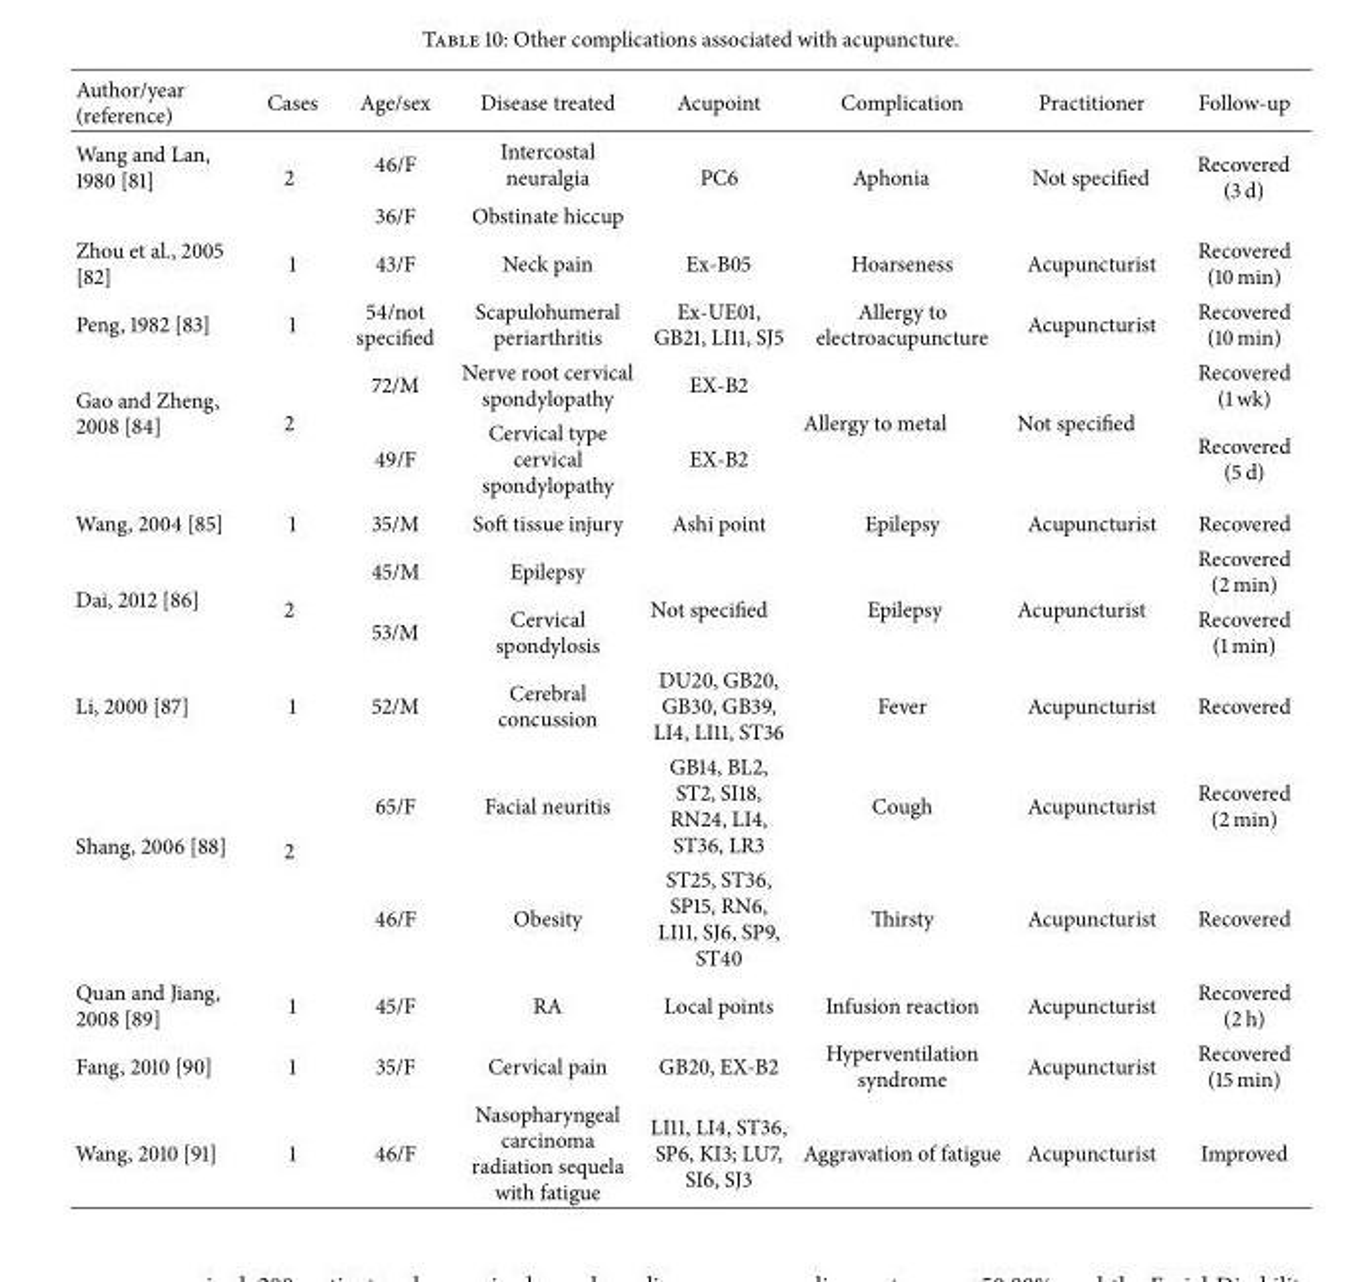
<table><thead><tr><td>Author/year (reference)</td><td>Cases</td><td>Age/sex</td><td>Disease treated</td><td>Acupoint</td><td>Complication</td><td>Practitioner</td><td>Follow-up</td></tr></thead><tbody><tr><td rowspan="2">Wang and Lan, 1980 [81]</td><td rowspan="2">2</td><td>46/F</td><td>Intercostal neuralgia</td><td rowspan="2">PC6</td><td rowspan="2">Aphonia</td><td rowspan="2">Not specified</td><td rowspan="2">Recovered (3 d)</td></tr><tr><td>36/F</td><td>Obstinate hiccup</td></tr><tr><td>Zhou et al., 2005 [82]</td><td>1</td><td>43/F</td><td>Neck pain</td><td>Ex-B05</td><td>Hoarseness</td><td>Acupuncturist</td><td>Recovered (10 min)</td></tr><tr><td>Peng, 1982 [83]</td><td>1</td><td>54/not specified</td><td>Scapulohumeral periarthritis</td><td>Ex-UE01, GB21, LI11, SJ5</td><td>Allergy to electroacupuncture</td><td>Acupuncturist</td><td>Recovered (10 min)</td></tr><tr><td rowspan="2">Gao and Zheng, 2008 [84]</td><td rowspan="2">2</td><td>72/M</td><td>Nerve root cervical spondylopathy</td><td>EX-B2</td><td rowspan="2">Allergy to metal</td><td rowspan="2">Not specified</td><td>Recovered (1 wk)</td></tr><tr><td>49/F</td><td>Cervical type cervical spondylopathy</td><td>EX-B2</td><td>Recovered (5 d)</td></tr><tr><td>Wang, 2004 [85]</td><td>1</td><td>35/M</td><td>Soft tissue injury</td><td>Ashi point</td><td>Epilepsy</td><td>Acupuncturist</td><td>Recovered</td></tr><tr><td rowspan="2">Dai, 2012 [86]</td><td rowspan="2">2</td><td>45/M</td><td>Epilepsy</td><td rowspan="2">Not specified</td><td rowspan="2">Epilepsy</td><td rowspan="2">Acupuncturist</td><td>Recovered (2 min)</td></tr><tr><td>53/M</td><td>Cervical spondylosis</td><td>Recovered (1 min)</td></tr><tr><td>Li, 2000 [87]</td><td>1</td><td>52/M</td><td>Cerebral concussion</td><td>DU20, GB20, GB30, GB39, LI4, LI11, ST36</td><td>Fever</td><td>Acupuncturist</td><td>Recovered</td></tr><tr><td rowspan="2">Shang, 2006 [88]</td><td rowspan="2">2</td><td>65/F</td><td>Facial neuritis</td><td>GB14, BL2, ST2, SI18, RN24, LI4, ST36, LR3</td><td>Cough</td><td>Acupuncturist</td><td>Recovered (2 min)</td></tr><tr><td>46/F</td><td>Obesity</td><td>ST25, ST36, SP15, RN6, LI11, SJ6, SP9, ST40</td><td>Thirsty</td><td>Acupuncturist</td><td>Recovered</td></tr><tr><td>Quan and Jiang, 2008 [89]</td><td>1</td><td>45/F</td><td>RA</td><td>Local points</td><td>Infusion reaction</td><td>Acupuncturist</td><td>Recovered (2 h)</td></tr><tr><td>Fang, 2010 [90]</td><td>1</td><td>35/F</td><td>Cervical pain</td><td>GB20, EX-B2</td><td>Hyperventilation syndrome</td><td>Acupuncturist</td><td>Recovered (15 min)</td></tr><tr><td>Wang, 2010 [91]</td><td>1</td><td>46/F</td><td>Nasopharyngeal carcinoma radiation sequela with fatigue</td><td>LI11, LI4, ST36, SP6, KI3; LU7, SI6, SJ3</td><td>Aggravation of fatigue</td><td>Acupuncturist</td><td>Improved</td></tr></tbody></table>